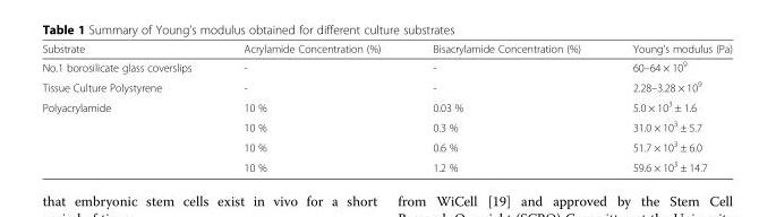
<table><thead><tr><td>Substrate</td><td>Acrylamide Concentration (%)</td><td>Bisacrylamide Concentration (%)</td><td>Young’s modulus (Pa)</td></tr></thead><tbody><tr><td>No.1 borosilicate glass coverslips</td><td>-</td><td>-</td><td>60–64 × 10<sup>9</sup></td></tr><tr><td>Tissue Culture Polystyrene</td><td>-</td><td>-</td><td>2.28–3.28 × 10<sup>9</sup></td></tr><tr><td rowspan="4">Polyacrylamide</td><td>10 %</td><td>0.03 %</td><td>5.0 × 10<sup>3</sup> ± 1.6</td></tr><tr><td>10 %</td><td>0.3 %</td><td>31.0 × 10<sup>3</sup> ± 5.7</td></tr><tr><td>10 %</td><td>0.6 %</td><td>51.7 × 10<sup>3</sup> ± 6.0</td></tr><tr><td>10 %</td><td>1.2 %</td><td>59.6 × 10<sup>3</sup> ± 14.7</td></tr></tbody></table>